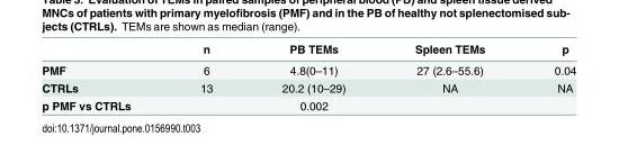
<table><thead><tr><td></td><td>n</td><td>PB TEMs</td><td>Spleen TEMs</td><td>p</td></tr></thead><tbody><tr><td>PMF</td><td>6</td><td>4.8(0–11)</td><td>27 (2.6–55.6)</td><td>0.04</td></tr><tr><td>CTRLs</td><td>13</td><td>20.2 (10–29)</td><td>NA</td><td>NA</td></tr><tr><td>p PMF vs CTRLs</td><td></td><td>0.002</td><td></td><td></td></tr></tbody></table>